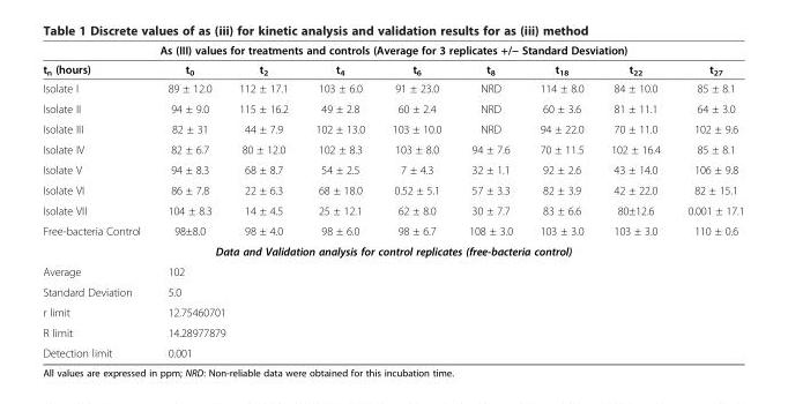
<table><thead><tr><td colspan="9">As (III) values for treatments and controls (Average for 3 replicates +/− Standard Desviation)</td></tr><tr><td>t<sub>n</sub> (hours)</td><td>t<sub>0</sub></td><td>t<sub>2</sub></td><td>t<sub>4</sub></td><td>t<sub>6</sub></td><td>t<sub>8</sub></td><td>t<sub>18</sub></td><td>t<sub>22</sub></td><td>t<sub>27</sub></td></tr></thead><tbody><tr><td>Isolate I</td><td>89 ± 12.0</td><td>112 ± 17.1</td><td>103 ± 6.0</td><td>91 ± 23.0</td><td>NRD</td><td>114 ± 8.0</td><td>84 ± 10.0</td><td>85 ± 8.1</td></tr><tr><td>Isolate II</td><td>94 ± 9.0</td><td>115 ± 16.2</td><td>49 ± 2.8</td><td>60 ± 2.4</td><td>NRD</td><td>60 ± 3.6</td><td>81 ± 11.1</td><td>64 ± 3.0</td></tr><tr><td>Isolate III</td><td>82 ± 31</td><td>44 ± 7.9</td><td>102 ± 13.0</td><td>103 ± 10.0</td><td>NRD</td><td>94 ± 22.0</td><td>70 ± 11.0</td><td>102 ± 9.6</td></tr><tr><td>Isolate IV</td><td>82 ± 6.7</td><td>80 ± 12.0</td><td>102 ± 8.3</td><td>103 ± 8.0</td><td>94 ± 7.6</td><td>70 ± 11.5</td><td>102 ± 16.4</td><td>85 ± 8.1</td></tr><tr><td>Isolate V</td><td>94 ± 8.3</td><td>68 ± 8.7</td><td>54 ± 2.5</td><td>7 ± 4.3</td><td>32 ± 1.1</td><td>92 ± 2.6</td><td>43 ± 14.0</td><td>106 ± 9.8</td></tr><tr><td>Isolate VI</td><td>86 ± 7.8</td><td>22 ± 6.3</td><td>68 ± 18.0</td><td>0.52 ± 5.1</td><td>57 ± 3.3</td><td>82 ± 3.9</td><td>42 ± 22.0</td><td>82 ± 15.1</td></tr><tr><td>Isolate VII</td><td>104 ± 8.3</td><td>14 ± 4.5</td><td>25 ± 12.1</td><td>62 ± 8.0</td><td>30 ± 7.7</td><td>83 ± 6.6</td><td>80±12.6</td><td>0.001 ± 17.1</td></tr><tr><td>Free-bacteria Control</td><td>98±8.0</td><td>98 ± 4.0</td><td>98 ± 6.0</td><td>98 ± 6.7</td><td>108 ± 3.0</td><td>103 ± 3.0</td><td>103 ± 3.0</td><td>110 ± 0.6</td></tr><tr><td colspan="9">Data and Validation analysis for control replicates (free-bacteria control)</td></tr><tr><td>Average</td><td>102</td><td></td><td></td><td></td><td></td><td></td><td></td><td></td></tr><tr><td>Standard Deviation</td><td>5.0</td><td></td><td></td><td></td><td></td><td></td><td></td><td></td></tr><tr><td>r limit</td><td>12.75460701</td><td></td><td></td><td></td><td></td><td></td><td></td><td></td></tr><tr><td>R limit</td><td>14.28977879</td><td></td><td></td><td></td><td></td><td></td><td></td><td></td></tr><tr><td>Detection limit</td><td colspan="8">0.001</td></tr></tbody></table>